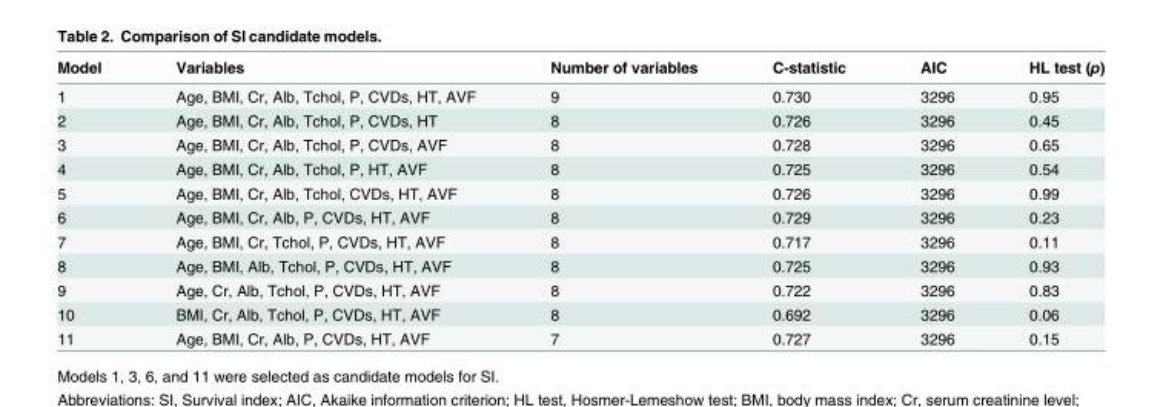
<table><thead><tr><td>Model</td><td>Variables</td><td>Number of variables</td><td>C-statistic</td><td>AIC</td><td>HL test (p)</td></tr></thead><tbody><tr><td>1</td><td>Age, BMI, Cr, Alb, Tchol, P, CVDs, HT, AVF</td><td>9</td><td>0.730</td><td>3296</td><td>0.95</td></tr><tr><td>2</td><td>Age, BMI, Cr, Alb, Tchol, P, CVDs, HT</td><td>8</td><td>0.726</td><td>3296</td><td>0.45</td></tr><tr><td>3</td><td>Age, BMI, Cr, Alb, Tchol, P, CVDs, AVF</td><td>8</td><td>0.728</td><td>3296</td><td>0.65</td></tr><tr><td>4</td><td>Age, BMI, Cr, Alb, Tchol, P, HT, AVF</td><td>8</td><td>0.725</td><td>3296</td><td>0.54</td></tr><tr><td>5</td><td>Age, BMI, Cr, Alb, Tchol, CVDs, HT, AVF</td><td>8</td><td>0.726</td><td>3296</td><td>0.99</td></tr><tr><td>6</td><td>Age, BMI, Cr, Alb, P, CVDs, HT, AVF</td><td>8</td><td>0.729</td><td>3296</td><td>0.23</td></tr><tr><td>7</td><td>Age, BMI, Cr, Tchol, P, CVDs, HT, AVF</td><td>8</td><td>0.717</td><td>3296</td><td>0.11</td></tr><tr><td>8</td><td>Age, BMI, Alb, Tchol, P, CVDs, HT, AVF</td><td>8</td><td>0.725</td><td>3296</td><td>0.93</td></tr><tr><td>9</td><td>Age, Cr, Alb, Tchol, P, CVDs, HT, AVF</td><td>8</td><td>0.722</td><td>3296</td><td>0.83</td></tr><tr><td>10</td><td>BMI, Cr, Alb, Tchol, P, CVDs, HT, AVF</td><td>8</td><td>0.692</td><td>3296</td><td>0.06</td></tr><tr><td>11</td><td>Age, BMI, Cr, Alb, P, CVDs, HT, AVF</td><td>7</td><td>0.727</td><td>3296</td><td>0.15</td></tr></tbody></table>